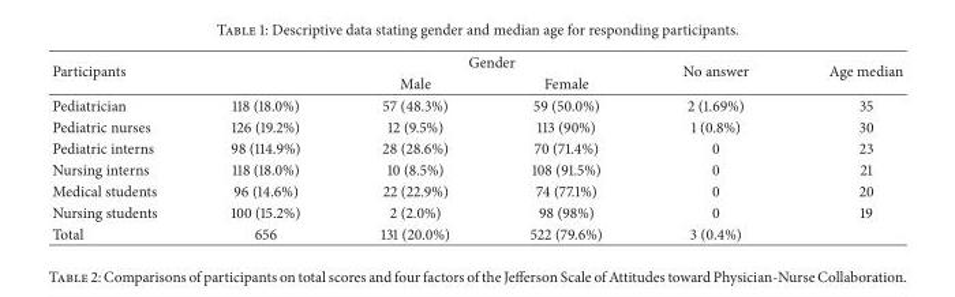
<table><thead><tr><td rowspan="2">Participants</td><td rowspan="2"></td><td colspan="2">Gender</td><td rowspan="2">No answer</td><td rowspan="2">Age median</td></tr><tr><td>Male</td><td>Female</td></tr></thead><tbody><tr><td>Pediatrician</td><td>118 (18.0%)</td><td>57 (48.3%)</td><td>59 (50.0%)</td><td>2 (1.69%)</td><td>35</td></tr><tr><td>Pediatric nurses</td><td>126 (19.2%)</td><td>12 (9.5%)</td><td>113 (90%)</td><td>1 (0.8%)</td><td>30</td></tr><tr><td>Pediatric interns</td><td>98 (114.9%)</td><td>28 (28.6%)</td><td>70 (71.4%)</td><td>0</td><td>23</td></tr><tr><td>Nursing interns</td><td>118 (18.0%)</td><td>10 (8.5%)</td><td>108 (91.5%)</td><td>0</td><td>21</td></tr><tr><td>Medical students</td><td>96 (14.6%)</td><td>22 (22.9%)</td><td>74 (77.1%)</td><td>0</td><td>20</td></tr><tr><td>Nursing students</td><td>100 (15.2%)</td><td>2 (2.0%)</td><td>98 (98%)</td><td>0</td><td>19</td></tr><tr><td>Total</td><td>656</td><td>131 (20.0%)</td><td>522 (79.6%)</td><td>3 (0.4%)</td><td></td></tr></tbody></table>